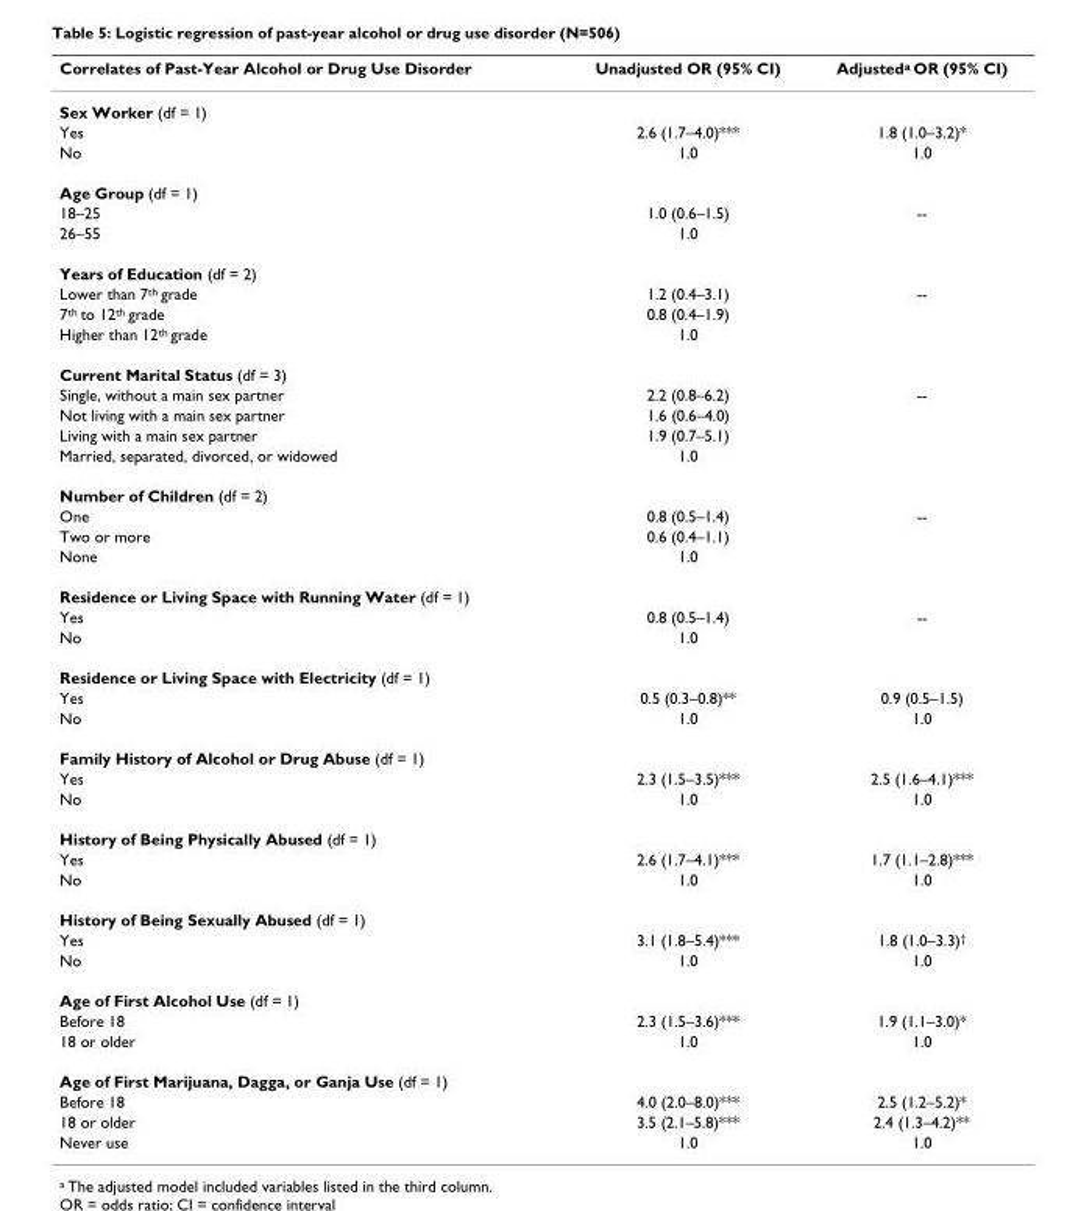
<table><thead><tr><td>Correlates of Past-Year Alcohol or Drug Use Disorder</td><td>Unadjusted OR (95% CI)</td><td>Adjusted<sup>a</sup> OR (95% CI)</td></tr></thead><tbody><tr><td colspan="3">Sex Worker (df = 1)</td></tr><tr><td>Yes</td><td>2.6 (1.7–4.0)***</td><td>1.8 (1.0–3.2)*</td></tr><tr><td>No</td><td>1.0</td><td>1.0</td></tr><tr><td colspan="3">Age Group (df = 1)</td></tr><tr><td>18–25</td><td>1.0 (0.6–1.5)</td><td>--</td></tr><tr><td>26–55</td><td>1.0</td><td></td></tr><tr><td colspan="3">Years of Education (df = 2)</td></tr><tr><td>Lower than 7<sup>th</sup> grade</td><td>1.2 (0.4–3.1)</td><td>--</td></tr><tr><td>7<sup>th</sup> to 12<sup>th</sup> grade</td><td>0.8 (0.4–1.9)</td><td></td></tr><tr><td>Higher than 12<sup>th</sup> grade</td><td>1.0</td><td></td></tr><tr><td colspan="3">Current Marital Status (df = 3)</td></tr><tr><td>Single, without a main sex partner</td><td>2.2 (0.8–6.2)</td><td>--</td></tr><tr><td>Not living with a main sex partner</td><td>1.6 (0.6–4.0)</td><td></td></tr><tr><td>Living with a main sex partner</td><td>1.9 (0.7–5.1)</td><td></td></tr><tr><td>Married, separated, divorced, or widowed</td><td>1.0</td><td></td></tr><tr><td colspan="3">Number of Children (df = 2)</td></tr><tr><td>One</td><td>0.8 (0.5–1.4)</td><td>--</td></tr><tr><td>Two or more</td><td>0.6 (0.4–1.1)</td><td></td></tr><tr><td>None</td><td>1.0</td><td></td></tr><tr><td colspan="3">Residence or Living Space with Running Water (df = 1)</td></tr><tr><td>Yes</td><td>0.8 (0.5–1.4)</td><td>--</td></tr><tr><td>No</td><td>1.0</td><td></td></tr><tr><td colspan="3">Residence or Living Space with Electricity (df = 1)</td></tr><tr><td>Yes</td><td>0.5 (0.3–0.8)**</td><td>0.9 (0.5–1.5)</td></tr><tr><td>No</td><td>1.0</td><td>1.0</td></tr><tr><td colspan="3">Family History of Alcohol or Drug Abuse (df = 1)</td></tr><tr><td>Yes</td><td>2.3 (1.5–3.5)***</td><td>2.5 (1.6–4.1)***</td></tr><tr><td>No</td><td>1.0</td><td>1.0</td></tr><tr><td colspan="3">History of Being Physically Abused (df = 1)</td></tr><tr><td>Yes</td><td>2.6 (1.7–4.1)***</td><td>1.7 (1.1–2.8)***</td></tr><tr><td>No</td><td>1.0</td><td>1.0</td></tr><tr><td colspan="3">History of Being Sexually Abused (df = 1)</td></tr><tr><td>Yes</td><td>3.1 (1.8–5.4)***</td><td>1.8 (1.0–3.3)<sup>†</sup></td></tr><tr><td>No</td><td>1.0</td><td>1.0</td></tr><tr><td colspan="3">Age of First Alcohol Use (df = 1)</td></tr><tr><td>Before 18</td><td>2.3 (1.5–3.6)***</td><td>1.9 (1.1–3.0)*</td></tr><tr><td>18 or older</td><td>1.0</td><td>1.0</td></tr><tr><td colspan="3">Age of First Marijuana, Dagga, or Ganja Use (df = 1)</td></tr><tr><td>Before 18</td><td>4.0 (2.0–8.0)***</td><td>2.5 (1.2–5.2)*</td></tr><tr><td>18 or older</td><td>3.5 (2.1–5.8)***</td><td>2.4 (1.3–4.2)**</td></tr><tr><td>Never use</td><td>1.0</td><td>1.0</td></tr></tbody></table>